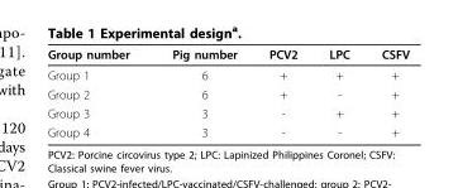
<table><thead><tr><td>Group number</td><td>Pig number</td><td>PCV2</td><td>LPC</td><td>CSFV</td></tr></thead><tbody><tr><td>Group 1</td><td>6</td><td>+</td><td>+</td><td>+</td></tr><tr><td>Group 2</td><td>6</td><td>+</td><td>-</td><td>+</td></tr><tr><td>Group 3</td><td>3</td><td>-</td><td>+</td><td>+</td></tr><tr><td>Group 4</td><td>3</td><td>-</td><td>-</td><td>+</td></tr></tbody></table>